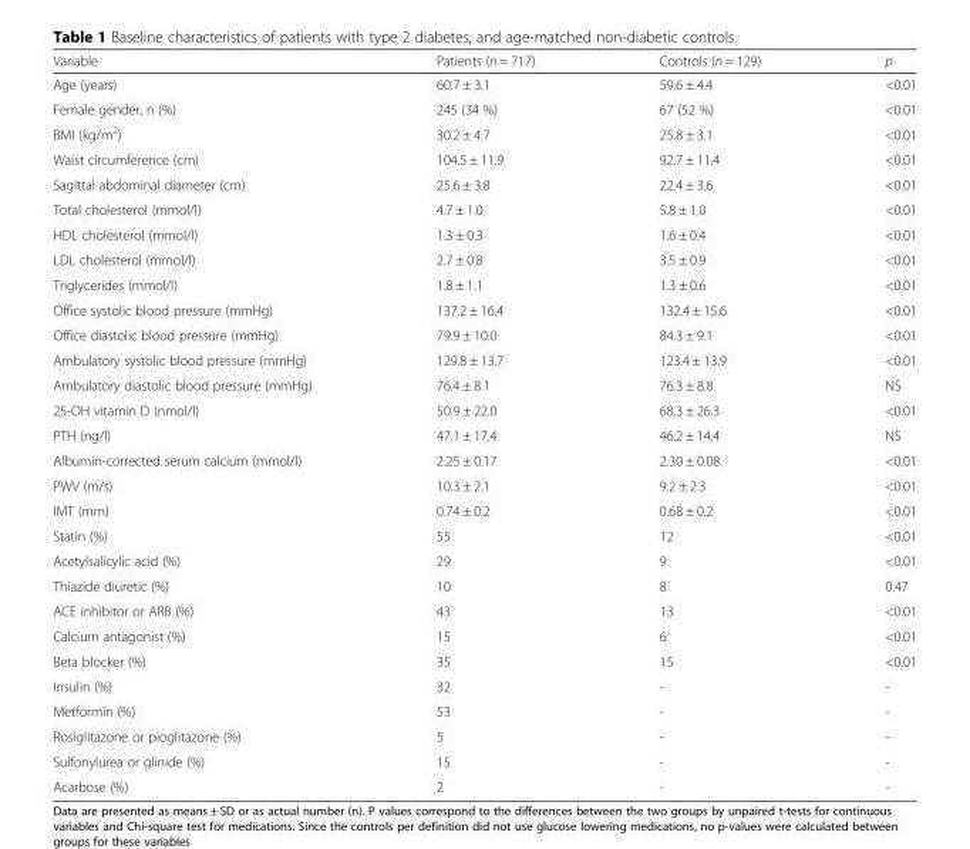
<table><thead><tr><td>Variable</td><td>Patients (n = 717)</td><td>Controls (n = 129)</td><td>p</td></tr></thead><tbody><tr><td>Age (years)</td><td>60.7 ± 3.1</td><td>59.6 ± 4.4</td><td>&lt;0.01</td></tr><tr><td>Female gender, n (%)</td><td>245 (34 %)</td><td>67 (52 %)</td><td>&lt;0.01</td></tr><tr><td>BMI (kg/m<sup>2</sup>)</td><td>30.2 ± 4.7</td><td>25.8 ± 3.1</td><td>&lt;0.01</td></tr><tr><td>Waist circumference (cm)</td><td>104.5 ± 11.9</td><td>92.7 ± 11.4</td><td>&lt;0.01</td></tr><tr><td>Sagittal abdominal diameter (cm)</td><td>25.6 ± 3.8</td><td>22.4 ± 3.6</td><td>&lt;0.01</td></tr><tr><td>Total cholesterol (mmol/l)</td><td>4.7 ± 1.0</td><td>5.8 ± 1.0</td><td>&lt;0.01</td></tr><tr><td>HDL cholesterol (mmol/l)</td><td>1.3 ± 0.3</td><td>1.6 ± 0.4</td><td>&lt;0.01</td></tr><tr><td>LDL cholesterol (mmol/l)</td><td>2.7 ± 0.8</td><td>3.5 ± 0.9</td><td>&lt;0.01</td></tr><tr><td>Triglycerides (mmol/l)</td><td>1.8 ± 1.1</td><td>1.3 ± 0.6</td><td>&lt;0.01</td></tr><tr><td>Office systolic blood pressure (mmHg)</td><td>137.2 ± 16.4</td><td>132.4 ± 15.6</td><td>&lt;0.01</td></tr><tr><td>Office diastolic blood pressure (mmHg)</td><td>79.9 ± 10.0</td><td>84.3 ± 9.1</td><td>&lt;0.01</td></tr><tr><td>Ambulatory systolic blood pressure (mmHg)</td><td>129.8 ± 13.7</td><td>123.4 ± 13.9</td><td>&lt;0.01</td></tr><tr><td>Ambulatory diastolic blood pressure (mmHg)</td><td>76.4 ± 8.1</td><td>76.3 ± 8.8</td><td>NS</td></tr><tr><td>25-OH vitamin D (nmol/l)</td><td>50.9 ± 22.0</td><td>68.3 ± 26.3</td><td>&lt;0.01</td></tr><tr><td>PTH (ng/l)</td><td>47.1 ± 17.4</td><td>46.2 ± 14.4</td><td>NS</td></tr><tr><td>Albumin-corrected serum calcium (mmol/l)</td><td>2.25 ± 0.17</td><td>2.30 ± 0.08</td><td>&lt;0.01</td></tr><tr><td>PWV (m/s)</td><td>10.3 ± 2.1</td><td>9.2 ± 2.3</td><td>&lt;0.01</td></tr><tr><td>IMT (mm)</td><td>0.74 ± 0.2</td><td>0.68 ± 0.2</td><td>&lt;0.01</td></tr><tr><td>Statin (%)</td><td>55</td><td>12</td><td>&lt;0.01</td></tr><tr><td>Acetylsalicylic acid (%)</td><td>29</td><td>9</td><td>&lt;0.01</td></tr><tr><td>Thiazide diuretic (%)</td><td>10</td><td>8</td><td>0.47</td></tr><tr><td>ACE inhibitor or ARB (%)</td><td>43</td><td>13</td><td>&lt;0.01</td></tr><tr><td>Calcium antagonist (%)</td><td>15</td><td>6</td><td>&lt;0.01</td></tr><tr><td>Beta blocker (%)</td><td>35</td><td>15</td><td>&lt;0.01</td></tr><tr><td>Insulin (%)</td><td>32</td><td>-</td><td>-</td></tr><tr><td>Metformin (%)</td><td>53</td><td>-</td><td>-</td></tr><tr><td>Rosiglitazone or pioglitazone (%)</td><td>5</td><td>-</td><td>-</td></tr><tr><td>Sulfonylurea or glinide (%)</td><td>15</td><td>-</td><td>-</td></tr><tr><td>Acarbose (%)</td><td>2</td><td>-</td><td>-</td></tr></tbody></table>